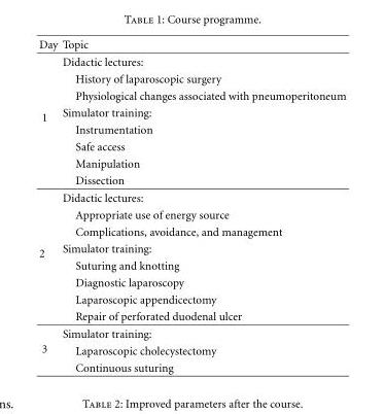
<table><thead><tr><td>Day</td><td>Topic</td></tr></thead><tbody><tr><td rowspan="8">1</td><td>Didactic lectures:</td></tr><tr><td>History of laparoscopic surgery</td></tr><tr><td>Physiological changes associated with pneumoperitoneum</td></tr><tr><td>Simulator training:</td></tr><tr><td>Instrumentation</td></tr><tr><td>Safe access</td></tr><tr><td>Manipulation</td></tr><tr><td>Dissection</td></tr><tr><td rowspan="8">2</td><td>Didactic lectures:</td></tr><tr><td>Appropriate use of energy source</td></tr><tr><td>Complications, avoidance, and management</td></tr><tr><td>Simulator training:</td></tr><tr><td>Suturing and knotting</td></tr><tr><td>Diagnostic laparoscopy</td></tr><tr><td>Laparoscopic appendicectomy</td></tr><tr><td>Repair of perforated duodenal ulcer</td></tr><tr><td rowspan="3">3</td><td>Simulator training:</td></tr><tr><td>Laparoscopic cholecystectomy</td></tr><tr><td>Continuous suturing</td></tr></tbody></table>